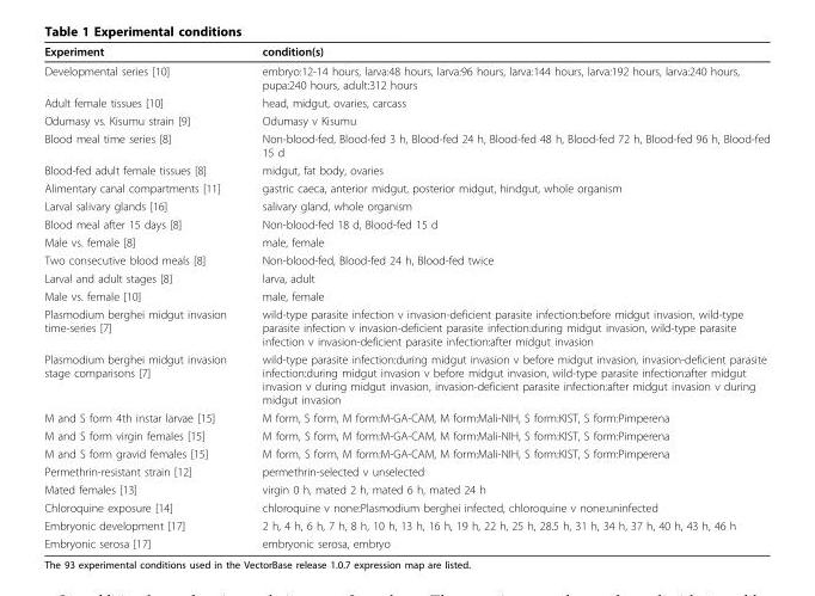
<table><thead><tr><td>Experiment</td><td>condition(s)</td></tr></thead><tbody><tr><td>Developmental series [10]</td><td>embryo:12-14 hours, larva:48 hours, larva:96 hours, larva:144 hours, larva:192 hours, larva:240 hours, pupa:240 hours, adult:312 hours</td></tr><tr><td>Adult female tissues [10]</td><td>head, midgut, ovaries, carcass</td></tr><tr><td>Odumasy vs. Kisumu strain [9]</td><td>Odumasy v Kisumu</td></tr><tr><td>Blood meal time series [8]</td><td>Non-blood-fed, Blood-fed 3 h, Blood-fed 24 h, Blood-fed 48 h, Blood-fed 72 h, Blood-fed 96 h, Blood-fed 15 d</td></tr><tr><td>Blood-fed adult female tissues [8]</td><td>midgut, fat body, ovaries</td></tr><tr><td>Alimentary canal compartments [11]</td><td>gastric caeca, anterior midgut, posterior midgut, hindgut, whole organism</td></tr><tr><td>Larval salivary glands [16]</td><td>salivary gland, whole organism</td></tr><tr><td>Blood meal after 15 days [8]</td><td>Non-blood-fed 18 d, Blood-fed 15 d</td></tr><tr><td>Male vs. female [8]</td><td>male, female</td></tr><tr><td>Two consecutive blood meals [8]</td><td>Non-blood-fed, Blood-fed 24 h, Blood-fed twice</td></tr><tr><td>Larval and adult stages [8]</td><td>larva, adult</td></tr><tr><td>Male vs. female [10]</td><td>male, female</td></tr><tr><td>Plasmodium berghei midgut invasion time-series [7]</td><td>wild-type parasite infection v invasion-deficient parasite infection:before midgut invasion, wild-type parasite infection v invasion-deficient parasite infection:during midgut invasion, wild-type parasite infection v invasion-deficient parasite infection:after midgut invasion</td></tr><tr><td>Plasmodium berghei midgut invasion stage comparisons [7]</td><td>wild-type parasite infection:during midgut invasion v before midgut invasion, invasion-deficient parasite infection:during midgut invasion v before midgut invasion, wild-type parasite infection:after midgut invasion v during midgut invasion, invasion-deficient parasite infection:after midgut invasion v during midgut invasion</td></tr><tr><td>M and S form 4th instar larvae [15]</td><td>M form, S form, M form:M-GA-CAM, M form:Mali-NIH, S form:KIST, S form:Pimperena</td></tr><tr><td>M and S form virgin females [15]</td><td>M form, S form, M form:M-GA-CAM, M form:Mali-NIH, S form:KIST, S form:Pimperena</td></tr><tr><td>M and S form gravid females [15]</td><td>M form, S form, M form:M-GA-CAM, M form:Mali-NIH, S form:KIST, S form:Pimperena</td></tr><tr><td>Permethrin-resistant strain [12]</td><td>permethrin-selected v unselected</td></tr><tr><td>Mated females [13]</td><td>virgin 0 h, mated 2 h, mated 6 h, mated 24 h</td></tr><tr><td>Chloroquine exposure [14]</td><td>chloroquine v none:Plasmodium berghei infected, chloroquine v none:uninfected</td></tr><tr><td>Embryonic development [17]</td><td>2 h, 4 h, 6 h, 7 h, 8 h, 10 h, 13 h, 16 h, 19 h, 22 h, 25 h, 28.5 h, 31 h, 34 h, 37 h, 40 h, 43 h, 46 h</td></tr><tr><td>Embryonic serosa [17]</td><td>embryonic serosa, embryo</td></tr></tbody></table>